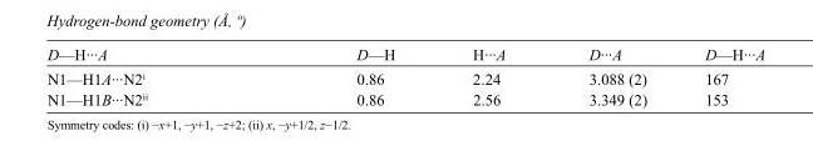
<table><tbody><tr><td>D—H···A</td><td>D—H</td><td>H···A</td><td>D···A</td><td>D—H···A</td></tr><tr><td>N1—H1A···N2<sup>i</sup></td><td>0.86</td><td>2.24</td><td>3.088 (2)</td><td>167</td></tr><tr><td>N1—H1B···N2<sup>ii</sup></td><td>0.86</td><td>2.56</td><td>3.349 (2)</td><td>153</td></tr></tbody></table>